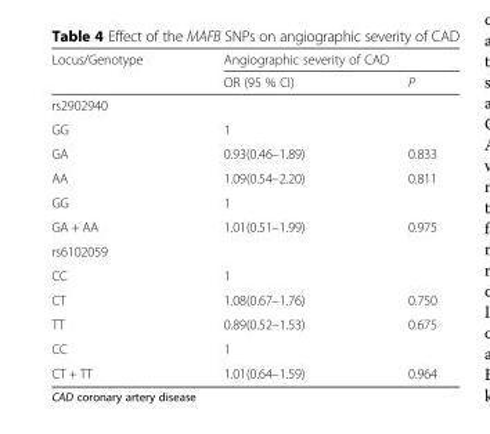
<table><thead><tr><td rowspan="2">Locus/Genotype</td><td colspan="2">Angiographic severity of CAD</td></tr><tr><td>OR (95 % CI)</td><td>P</td></tr></thead><tbody><tr><td colspan="3">rs2902940</td></tr><tr><td>GG</td><td>1</td><td></td></tr><tr><td>GA</td><td>0.93(0.46–1.89)</td><td>0.833</td></tr><tr><td>AA</td><td>1.09(0.54–2.20)</td><td>0.811</td></tr><tr><td>GG</td><td>1</td><td></td></tr><tr><td>GA + AA</td><td>1.01(0.51–1.99)</td><td>0.975</td></tr><tr><td colspan="3">rs6102059</td></tr><tr><td>CC</td><td>1</td><td></td></tr><tr><td>CT</td><td>1.08(0.67–1.76)</td><td>0.750</td></tr><tr><td>TT</td><td>0.89(0.52–1.53)</td><td>0.675</td></tr><tr><td>CC</td><td>1</td><td></td></tr><tr><td>CT + TT</td><td>1.01(0.64–1.59)</td><td>0.964</td></tr></tbody></table>